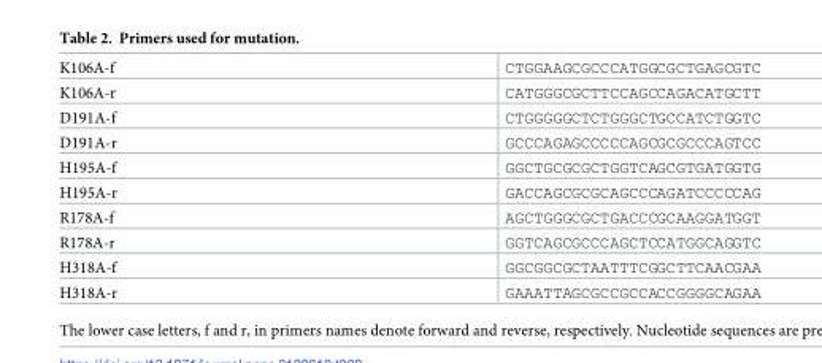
<table><tbody><tr><td>K106A-f</td><td>CTGGAAGCGCCCATGGCGCTGAGCGTC</td></tr><tr><td>K106A-r</td><td>CATGGGCGCTTCCAGCCAGACATGCTT</td></tr><tr><td>D191A-f</td><td>CTGGGGGCTCTGGGCTGCCATCTGGTC</td></tr><tr><td>D191A-r</td><td>GCCCAGAGCCCCCAGCGCGCCCAGTCC</td></tr><tr><td>H195A-f</td><td>GGCTGCGCGCTGGTCAGCGTGATGGTG</td></tr><tr><td>H195A-r</td><td>GACCAGCGCGCAGCCCAGATCCCCCAG</td></tr><tr><td>R178A-f</td><td>AGCTGGGCGCTGACCCGCAAGGATGGT</td></tr><tr><td>R178A-r</td><td>GGTCAGCGCCCAGCTCCATGGCAGGTC</td></tr><tr><td>H318A-f</td><td>GGCGGCGCTAATTTCGGCTTCAACGAA</td></tr><tr><td>H318A-r</td><td>GAAATTAGCGCCGCCACCGGGGCAGAA</td></tr></tbody></table>